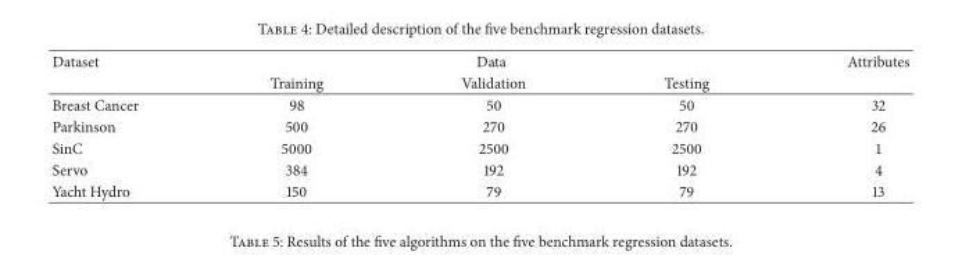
<table><thead><tr><td rowspan="2">Dataset</td><td colspan="3">Data</td><td rowspan="2">Attributes</td></tr><tr><td>Training</td><td>Validation</td><td>Testing</td></tr></thead><tbody><tr><td>Breast Cancer</td><td>98</td><td>50</td><td>50</td><td>32</td></tr><tr><td>Parkinson</td><td>500</td><td>270</td><td>270</td><td>26</td></tr><tr><td>SinC</td><td>5000</td><td>2500</td><td>2500</td><td>1</td></tr><tr><td>Servo</td><td>384</td><td>192</td><td>192</td><td>4</td></tr><tr><td>Yacht Hydro</td><td>150</td><td>79</td><td>79</td><td>13</td></tr></tbody></table>